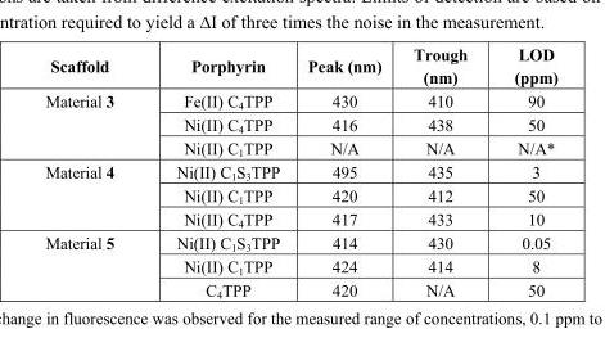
<table><thead><tr><td>Scaffold</td><td>Porphyrin</td><td>Peak (nm)</td><td>Trough (nm)</td><td>LOD (ppm)</td></tr></thead><tbody><tr><td rowspan="3">Material 3</td><td>Fe(II) C<sub>4</sub>TPP</td><td>430</td><td>410</td><td>90</td></tr><tr><td>Ni(II) C<sub>4</sub>TPP</td><td>416</td><td>438</td><td>50</td></tr><tr><td>Ni(II) C<sub>1</sub>TPP</td><td>N/A</td><td>N/A</td><td>N/A*</td></tr><tr><td rowspan="3">Material 4</td><td>Ni(II) C<sub>1</sub>S<sub>3</sub>TPP</td><td>495</td><td>435</td><td>3</td></tr><tr><td>Ni(II) C<sub>1</sub>TPP</td><td>420</td><td>412</td><td>50</td></tr><tr><td>Ni(II) C<sub>4</sub>TPP</td><td>417</td><td>433</td><td>10</td></tr><tr><td rowspan="3">Material 5</td><td>Ni(II) C<sub>1</sub>S<sub>3</sub>TPP</td><td>414</td><td>430</td><td>0.05</td></tr><tr><td>Ni(II) C<sub>1</sub>TPP</td><td>424</td><td>414</td><td>8</td></tr><tr><td>C<sub>4</sub>TPP</td><td>420</td><td>N/A</td><td>50</td></tr></tbody></table>